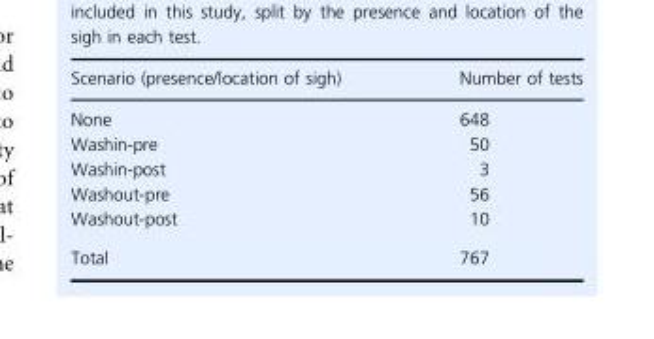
<table><thead><tr><td>Scenario (presence/location of sigh)</td><td>Number of tests</td></tr></thead><tbody><tr><td>None</td><td>648</td></tr><tr><td>Washin-pre</td><td>50</td></tr><tr><td>Washin-post</td><td>3</td></tr><tr><td>Washout-pre</td><td>56</td></tr><tr><td>Washout-post</td><td>10</td></tr><tr><td>Total</td><td>767</td></tr></tbody></table>